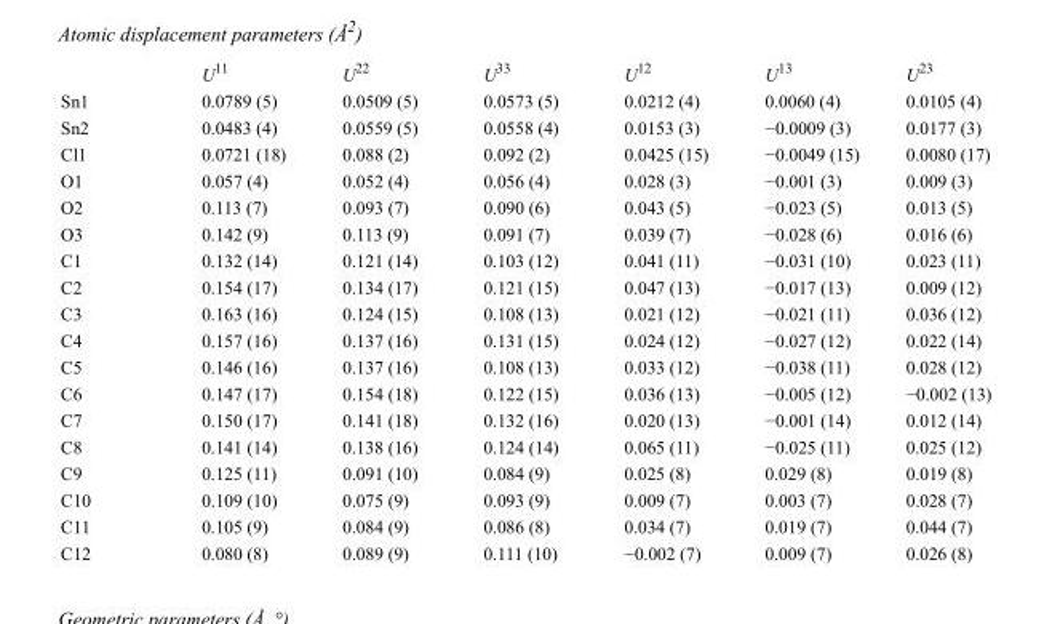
<table><thead><tr><td></td><td>U<sup>11</sup></td><td>U<sup>22</sup></td><td>U<sup>33</sup></td><td>U<sup>12</sup></td><td>U<sup>13</sup></td><td>U<sup>23</sup></td></tr></thead><tbody><tr><td>Sn1</td><td>0.0789 (5)</td><td>0.0509 (5)</td><td>0.0573 (5)</td><td>0.0212 (4)</td><td>0.0060 (4)</td><td>0.0105 (4)</td></tr><tr><td>Sn2</td><td>0.0483 (4)</td><td>0.0559 (5)</td><td>0.0558 (4)</td><td>0.0153 (3)</td><td>−0.0009 (3)</td><td>0.0177 (3)</td></tr><tr><td>Cl1</td><td>0.0721 (18)</td><td>0.088 (2)</td><td>0.092 (2)</td><td>0.0425 (15)</td><td>−0.0049 (15)</td><td>0.0080 (17)</td></tr><tr><td>O1</td><td>0.057 (4)</td><td>0.052 (4)</td><td>0.056 (4)</td><td>0.028 (3)</td><td>−0.001 (3)</td><td>0.009 (3)</td></tr><tr><td>O2</td><td>0.113 (7)</td><td>0.093 (7)</td><td>0.090 (6)</td><td>0.043 (5)</td><td>−0.023 (5)</td><td>0.013 (5)</td></tr><tr><td>O3</td><td>0.142 (9)</td><td>0.113 (9)</td><td>0.091 (7)</td><td>0.039 (7)</td><td>−0.028 (6)</td><td>0.016 (6)</td></tr><tr><td>C1</td><td>0.132 (14)</td><td>0.121 (14)</td><td>0.103 (12)</td><td>0.041 (11)</td><td>−0.031 (10)</td><td>0.023 (11)</td></tr><tr><td>C2</td><td>0.154 (17)</td><td>0.134 (17)</td><td>0.121 (15)</td><td>0.047 (13)</td><td>−0.017 (13)</td><td>0.009 (12)</td></tr><tr><td>C3</td><td>0.163 (16)</td><td>0.124 (15)</td><td>0.108 (13)</td><td>0.021 (12)</td><td>−0.021 (11)</td><td>0.036 (12)</td></tr><tr><td>C4</td><td>0.157 (16)</td><td>0.137 (16)</td><td>0.131 (15)</td><td>0.024 (12)</td><td>−0.027 (12)</td><td>0.022 (14)</td></tr><tr><td>C5</td><td>0.146 (16)</td><td>0.137 (16)</td><td>0.108 (13)</td><td>0.033 (12)</td><td>−0.038 (11)</td><td>0.028 (12)</td></tr><tr><td>C6</td><td>0.147 (17)</td><td>0.154 (18)</td><td>0.122 (15)</td><td>0.036 (13)</td><td>−0.005 (12)</td><td>−0.002 (13)</td></tr><tr><td>C7</td><td>0.150 (17)</td><td>0.141 (18)</td><td>0.132 (16)</td><td>0.020 (13)</td><td>−0.001 (14)</td><td>0.012 (14)</td></tr><tr><td>C8</td><td>0.141 (14)</td><td>0.138 (16)</td><td>0.124 (14)</td><td>0.065 (11)</td><td>−0.025 (11)</td><td>0.025 (12)</td></tr><tr><td>C9</td><td>0.125 (11)</td><td>0.091 (10)</td><td>0.084 (9)</td><td>0.025 (8)</td><td>0.029 (8)</td><td>0.019 (8)</td></tr><tr><td>C10</td><td>0.109 (10)</td><td>0.075 (9)</td><td>0.093 (9)</td><td>0.009 (7)</td><td>0.003 (7)</td><td>0.028 (7)</td></tr><tr><td>C11</td><td>0.105 (9)</td><td>0.084 (9)</td><td>0.086 (8)</td><td>0.034 (7)</td><td>0.019 (7)</td><td>0.044 (7)</td></tr><tr><td>C12</td><td>0.080 (8)</td><td>0.089 (9)</td><td>0.111 (10)</td><td>−0.002 (7)</td><td>0.009 (7)</td><td>0.026 (8)</td></tr></tbody></table>